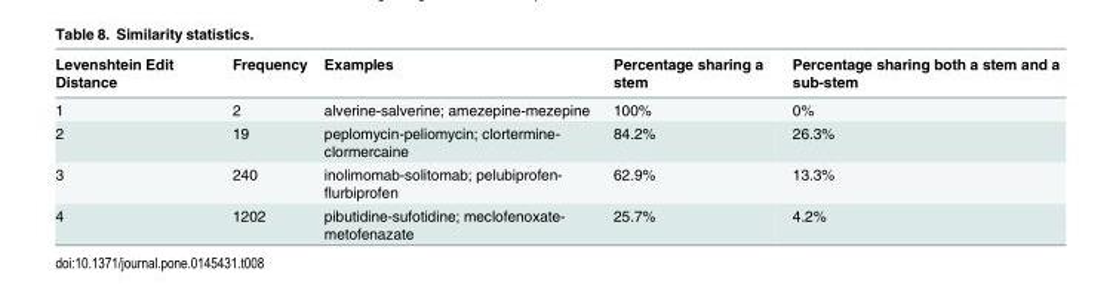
<table><thead><tr><td>Levenshtein Edit Distance</td><td>Frequency</td><td>Examples</td><td>Percentage sharing a stem</td><td>Percentage sharing both a stem and a sub-stem</td></tr></thead><tbody><tr><td>1</td><td>2</td><td>alverine-salverine; amezepine-mezepine</td><td>100%</td><td>0%</td></tr><tr><td>2</td><td>19</td><td>peplomycin-peliomycin; clortermine- clormercaine</td><td>84.2%</td><td>26.3%</td></tr><tr><td>3</td><td>240</td><td>inolimomab-solitomab; pelubiprofen- flurbiprofen</td><td>62.9%</td><td>13.3%</td></tr><tr><td>4</td><td>1202</td><td>pibutidine-sufotidine; meclofenoxate- metofenazate</td><td>25.7%</td><td>4.2%</td></tr></tbody></table>